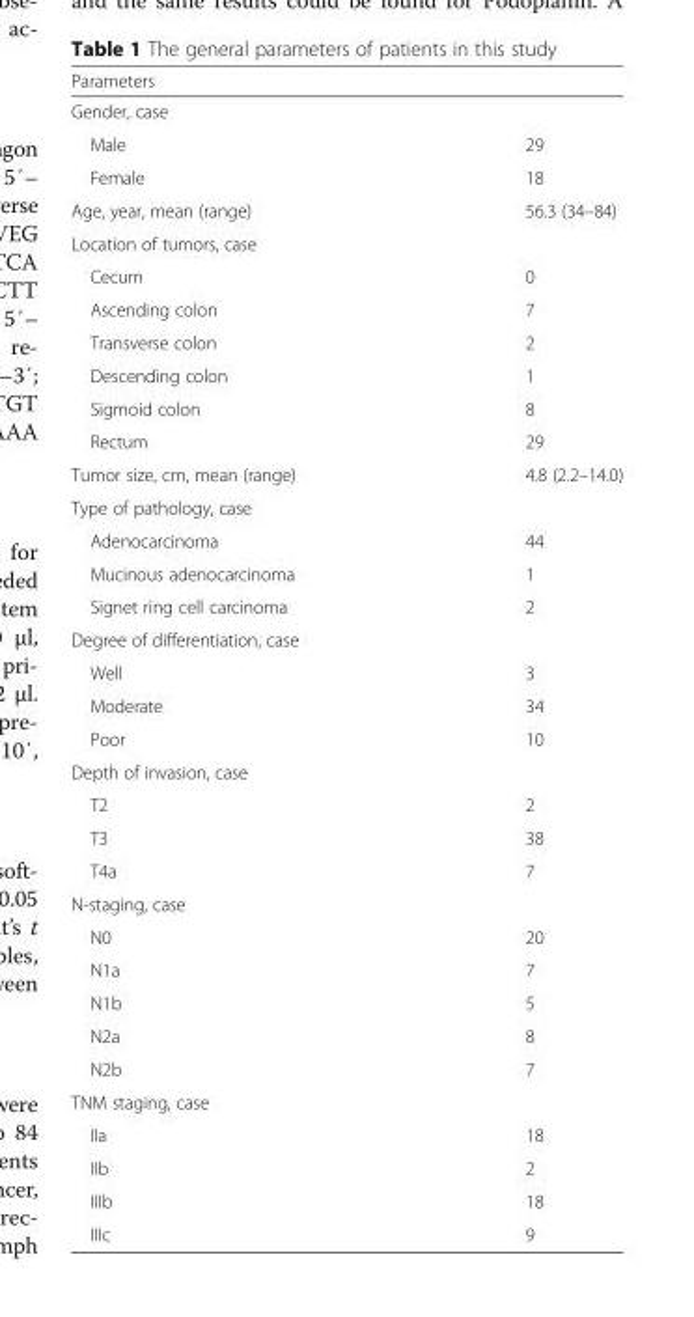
<table><thead><tr><td>Parameters</td><td></td></tr></thead><tbody><tr><td colspan="2">Gender, case</td></tr><tr><td>Male</td><td>29</td></tr><tr><td>Female</td><td>18</td></tr><tr><td>Age, year, mean (range)</td><td>56.3 (34–84)</td></tr><tr><td colspan="2">Location of tumors, case</td></tr><tr><td>Cecum</td><td>0</td></tr><tr><td>Ascending colon</td><td>7</td></tr><tr><td>Transverse colon</td><td>2</td></tr><tr><td>Descending colon</td><td>1</td></tr><tr><td>Sigmoid colon</td><td>8</td></tr><tr><td>Rectum</td><td>29</td></tr><tr><td>Tumor size, cm, mean (range)</td><td>4.8 (2.2–14.0)</td></tr><tr><td colspan="2">Type of pathology, case</td></tr><tr><td>Adenocarcinoma</td><td>44</td></tr><tr><td>Mucinous adenocarcinoma</td><td>1</td></tr><tr><td>Signet ring cell carcinoma</td><td>2</td></tr><tr><td colspan="2">Degree of differentiation, case</td></tr><tr><td>Well</td><td>3</td></tr><tr><td>Moderate</td><td>34</td></tr><tr><td>Poor</td><td>10</td></tr><tr><td colspan="2">Depth of invasion, case</td></tr><tr><td>T2</td><td>2</td></tr><tr><td>T3</td><td>38</td></tr><tr><td>T4a</td><td>7</td></tr><tr><td colspan="2">N-staging, case</td></tr><tr><td>N0</td><td>20</td></tr><tr><td>N1a</td><td>7</td></tr><tr><td>N1b</td><td>5</td></tr><tr><td>N2a</td><td>8</td></tr><tr><td>N2b</td><td>7</td></tr><tr><td colspan="2">TNM staging, case</td></tr><tr><td>IIa</td><td>18</td></tr><tr><td>IIb</td><td>2</td></tr><tr><td>IIIb</td><td>18</td></tr><tr><td>IIIc</td><td>9</td></tr></tbody></table>